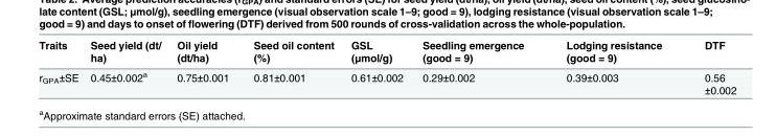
<table><thead><tr><td>Traits</td><td>Seed yield (dt/ ha)</td><td>Oil yield (dt/ha)</td><td>Seed oil content (%)</td><td>GSL (μmol/g)</td><td>Seedling emergence (good = 9)</td><td>Lodging resistance (good = 9)</td><td>DTF</td></tr></thead><tbody><tr><td>r<sub>GPA</sub>±SE</td><td>0.45±0.002<sup>a</sup></td><td>0.75±0.001</td><td>0.81±0.001</td><td>0.61±0.002</td><td>0.29±0.002</td><td>0.39±0.003</td><td>0.56 ±0.002</td></tr></tbody></table>